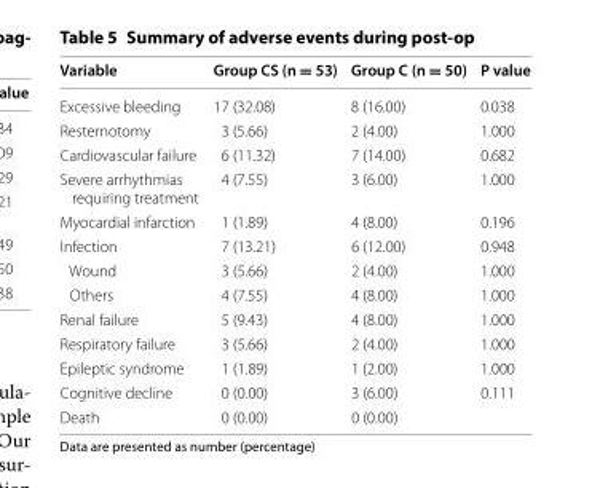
<table><thead><tr><td>Variable</td><td>Group CS (n = 53)</td><td>Group C (n = 50)</td><td>P value</td></tr></thead><tbody><tr><td>Excessive bleeding</td><td>17 (32.08)</td><td>8 (16.00)</td><td>0.038</td></tr><tr><td>Resternotomy</td><td>3 (5.66)</td><td>2 (4.00)</td><td>1.000</td></tr><tr><td>Cardiovascular failure</td><td>6 (11.32)</td><td>7 (14.00)</td><td>0.682</td></tr><tr><td>Severe arrhythmias requiring treatment</td><td>4 (7.55)</td><td>3 (6.00)</td><td>1.000</td></tr><tr><td>Myocardial infarction</td><td>1 (1.89)</td><td>4 (8.00)</td><td>0.196</td></tr><tr><td>Infection</td><td>7 (13.21)</td><td>6 (12.00)</td><td>0.948</td></tr><tr><td>Wound</td><td>3 (5.66)</td><td>2 (4.00)</td><td>1.000</td></tr><tr><td>Others</td><td>4 (7.55)</td><td>4 (8.00)</td><td>1.000</td></tr><tr><td>Renal failure</td><td>5 (9.43)</td><td>4 (8.00)</td><td>1.000</td></tr><tr><td>Respiratory failure</td><td>3 (5.66)</td><td>2 (4.00)</td><td>1.000</td></tr><tr><td>Epileptic syndrome</td><td>1 (1.89)</td><td>1 (2.00)</td><td>1.000</td></tr><tr><td>Cognitive decline</td><td>0 (0.00)</td><td>3 (6.00)</td><td>0.111</td></tr><tr><td>Death</td><td>0 (0.00)</td><td>0 (0.00)</td><td></td></tr></tbody></table>